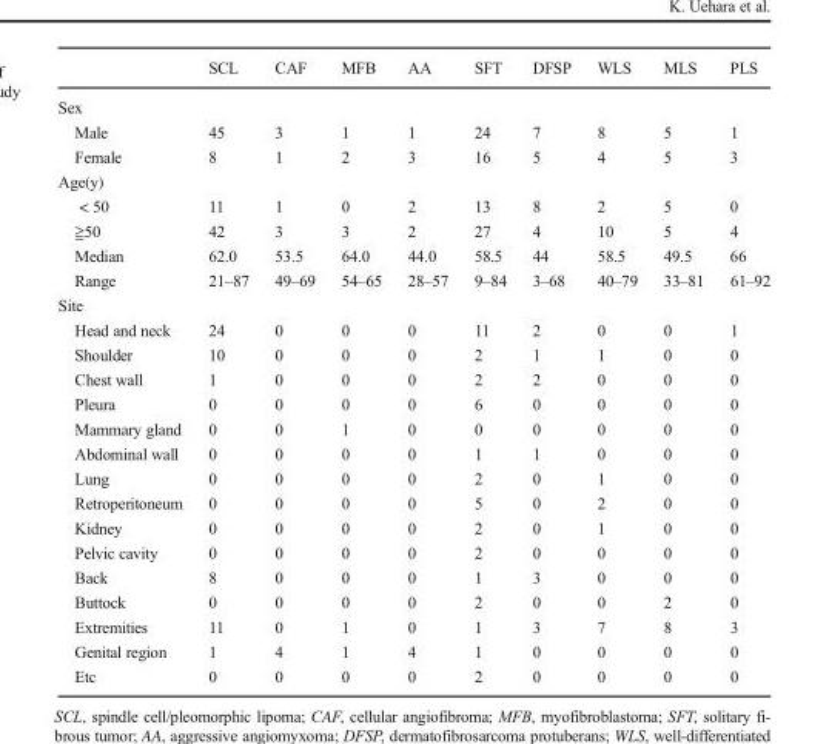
<table><thead><tr><td></td><td>SCL</td><td>CAF</td><td>MFB</td><td>AA</td><td>SFT</td><td>DFSP</td><td>WLS</td><td>MLS</td><td>PLS</td></tr></thead><tbody><tr><td colspan="10">Sex</td></tr><tr><td>Male</td><td>45</td><td>3</td><td>1</td><td>1</td><td>24</td><td>7</td><td>8</td><td>5</td><td>1</td></tr><tr><td>Female</td><td>8</td><td>1</td><td>2</td><td>3</td><td>16</td><td>5</td><td>4</td><td>5</td><td>3</td></tr><tr><td colspan="10">Age(y)</td></tr><tr><td>&lt; 50</td><td>11</td><td>1</td><td>0</td><td>2</td><td>13</td><td>8</td><td>2</td><td>5</td><td>0</td></tr><tr><td>≧50</td><td>42</td><td>3</td><td>3</td><td>2</td><td>27</td><td>4</td><td>10</td><td>5</td><td>4</td></tr><tr><td>Median</td><td>62.0</td><td>53.5</td><td>64.0</td><td>44.0</td><td>58.5</td><td>44</td><td>58.5</td><td>49.5</td><td>66</td></tr><tr><td>Range</td><td>21–87</td><td>49–69</td><td>54–65</td><td>28–57</td><td>9–84</td><td>3–68</td><td>40–79</td><td>33–81</td><td>61–92</td></tr><tr><td colspan="10">Site</td></tr><tr><td>Head and neck</td><td>24</td><td>0</td><td>0</td><td>0</td><td>11</td><td>2</td><td>0</td><td>0</td><td>1</td></tr><tr><td>Shoulder</td><td>10</td><td>0</td><td>0</td><td>0</td><td>2</td><td>1</td><td>1</td><td>0</td><td>0</td></tr><tr><td>Chest wall</td><td>1</td><td>0</td><td>0</td><td>0</td><td>2</td><td>2</td><td>0</td><td>0</td><td>0</td></tr><tr><td>Pleura</td><td>0</td><td>0</td><td>0</td><td>0</td><td>6</td><td>0</td><td>0</td><td>0</td><td>0</td></tr><tr><td>Mammary gland</td><td>0</td><td>0</td><td>1</td><td>0</td><td>0</td><td>0</td><td>0</td><td>0</td><td>0</td></tr><tr><td>Abdominal wall</td><td>0</td><td>0</td><td>0</td><td>0</td><td>1</td><td>1</td><td>0</td><td>0</td><td>0</td></tr><tr><td>Lung</td><td>0</td><td>0</td><td>0</td><td>0</td><td>2</td><td>0</td><td>1</td><td>0</td><td>0</td></tr><tr><td>Retroperitoneum</td><td>0</td><td>0</td><td>0</td><td>0</td><td>5</td><td>0</td><td>2</td><td>0</td><td>0</td></tr><tr><td>Kidney</td><td>0</td><td>0</td><td>0</td><td>0</td><td>2</td><td>0</td><td>1</td><td>0</td><td>0</td></tr><tr><td>Pelvic cavity</td><td>0</td><td>0</td><td>0</td><td>0</td><td>2</td><td>0</td><td>0</td><td>0</td><td>0</td></tr><tr><td>Back</td><td>8</td><td>0</td><td>0</td><td>0</td><td>1</td><td>3</td><td>0</td><td>0</td><td>0</td></tr><tr><td>Buttock</td><td>0</td><td>0</td><td>0</td><td>0</td><td>2</td><td>0</td><td>0</td><td>2</td><td>0</td></tr><tr><td>Extremities</td><td>11</td><td>0</td><td>1</td><td>0</td><td>1</td><td>3</td><td>7</td><td>8</td><td>3</td></tr><tr><td>Genital region</td><td>1</td><td>4</td><td>1</td><td>4</td><td>1</td><td>0</td><td>0</td><td>0</td><td>0</td></tr><tr><td>Etc</td><td>0</td><td>0</td><td>0</td><td>0</td><td>2</td><td>0</td><td>0</td><td>0</td><td>0</td></tr></tbody></table>